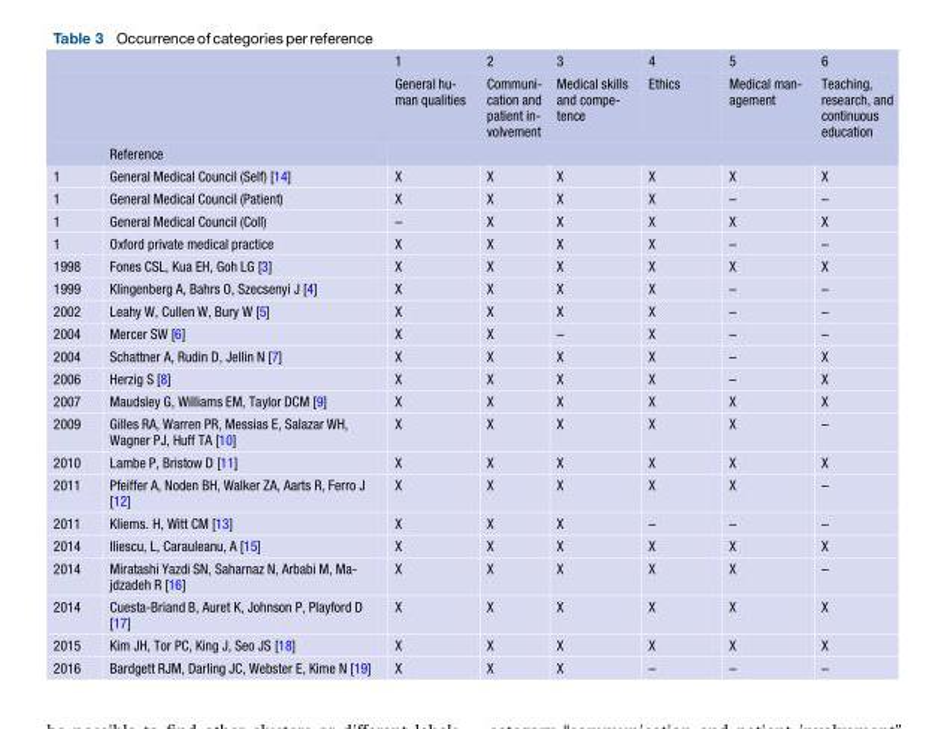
<table><thead><tr><td rowspan="3"></td><td rowspan="3">Reference</td><td rowspan="3">1 General hu- man qualities</td><td rowspan="3">2 Communi- cation and patient in- volvement</td><td rowspan="3">3 Medical skills and compe- tence</td><td rowspan="3">4 Ethics</td><td rowspan="3">5 Medical man- agement</td><td rowspan="3">6 Teaching, research, and continuous education</td></tr><tr></tr><tr></tr></thead><tbody><tr><td>1</td><td>General Medical Council (Self) [14]</td><td>X</td><td>X</td><td>X</td><td>X</td><td>X</td><td>X</td></tr><tr><td>1</td><td>General Medical Council (Patient)</td><td>X</td><td>X</td><td>X</td><td>X</td><td>–</td><td>–</td></tr><tr><td>1</td><td>General Medical Council (Coll)</td><td>–</td><td>X</td><td>X</td><td>X</td><td>X</td><td>X</td></tr><tr><td>1</td><td>Oxford private medical practice</td><td>X</td><td>X</td><td>X</td><td>X</td><td>–</td><td>–</td></tr><tr><td>1998</td><td>Fones CSL, Kua EH, Goh LG [3]</td><td>X</td><td>X</td><td>X</td><td>X</td><td>X</td><td>X</td></tr><tr><td>1999</td><td>Klingenberg A, Bahrs O, Szecsenyi J [4]</td><td>X</td><td>X</td><td>X</td><td>X</td><td>–</td><td>–</td></tr><tr><td>2002</td><td>Leahy W, Cullen W, Bury W [5]</td><td>X</td><td>X</td><td>X</td><td>X</td><td>–</td><td>–</td></tr><tr><td>2004</td><td>Mercer SW [6]</td><td>X</td><td>X</td><td>–</td><td>X</td><td>–</td><td>–</td></tr><tr><td>2004</td><td>Schattner A, Rudin D, Jellin N [7]</td><td>X</td><td>X</td><td>X</td><td>X</td><td>–</td><td>X</td></tr><tr><td>2006</td><td>Herzig S [8]</td><td>X</td><td>X</td><td>X</td><td>X</td><td>–</td><td>X</td></tr><tr><td>2007</td><td>Maudsley G, Williams EM, Taylor DCM [9]</td><td>X</td><td>X</td><td>X</td><td>X</td><td>X</td><td>X</td></tr><tr><td>2009</td><td>Gilles RA, Warren PR, Messias E, Salazar WH, Wagner PJ, Huff TA [10]</td><td>X</td><td>X</td><td>X</td><td>X</td><td>X</td><td>–</td></tr><tr><td>2010</td><td>Lambe P, Bristow D [11]</td><td>X</td><td>X</td><td>X</td><td>X</td><td>X</td><td>X</td></tr><tr><td>2011</td><td>Pfeiffer A, Noden BH, Walker ZA, Aarts R, Ferro J [12]</td><td>X</td><td>X</td><td>X</td><td>X</td><td>X</td><td>–</td></tr><tr><td>2011</td><td>Kliems. H, Witt CM [13]</td><td>X</td><td>X</td><td>X</td><td>–</td><td>–</td><td>–</td></tr><tr><td>2014</td><td>Iliescu, L, Carauleanu, A [15]</td><td>X</td><td>X</td><td>X</td><td>X</td><td>X</td><td>X</td></tr><tr><td>2014</td><td>Miratashi Yazdi SN, Saharnaz N, Arbabi M, Ma- jdzadeh R [16]</td><td>X</td><td>X</td><td>X</td><td>X</td><td>X</td><td>–</td></tr><tr><td>2014</td><td>Cuesta-Briand B, Auret K, Johnson P, Playford D [17]</td><td>X</td><td>X</td><td>X</td><td>X</td><td>X</td><td>X</td></tr><tr><td>2015</td><td>Kim JH, Tor PC, King J, Seo JS [18]</td><td>X</td><td>X</td><td>X</td><td>X</td><td>X</td><td>X</td></tr><tr><td>2016</td><td>Bardgett RJM, Darling JC, Webster E, Kime N [19]</td><td>X</td><td>X</td><td>X</td><td>–</td><td>–</td><td>–</td></tr></tbody></table>